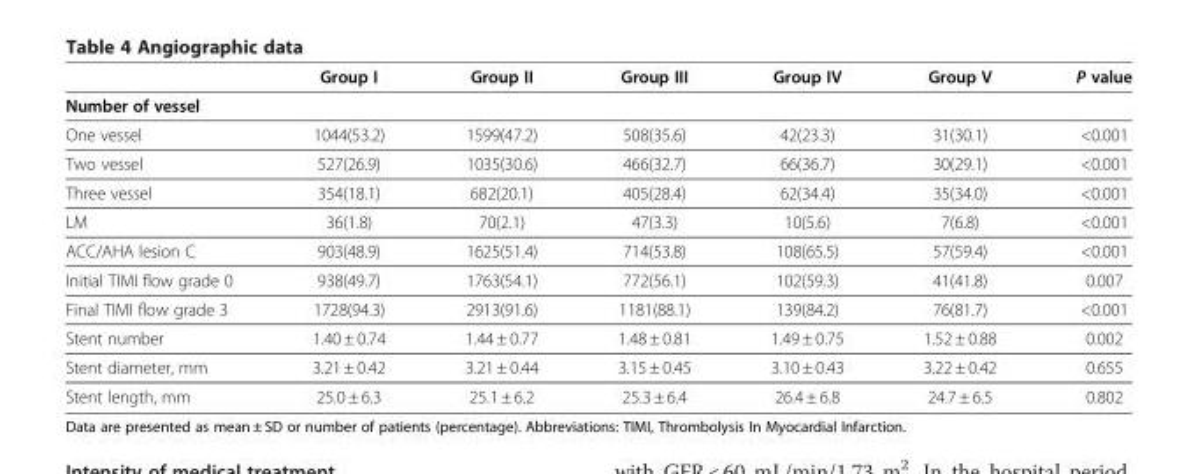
<table><thead><tr><td></td><td>Group I</td><td>Group II</td><td>Group III</td><td>Group IV</td><td>Group V</td><td>P value</td></tr></thead><tbody><tr><td colspan="7">Number of vessel</td></tr><tr><td>One vessel</td><td>1044(53.2)</td><td>1599(47.2)</td><td>508(35.6)</td><td>42(23.3)</td><td>31(30.1)</td><td>&lt;0.001</td></tr><tr><td>Two vessel</td><td>527(26.9)</td><td>1035(30.6)</td><td>466(32.7)</td><td>66(36.7)</td><td>30(29.1)</td><td>&lt;0.001</td></tr><tr><td>Three vessel</td><td>354(18.1)</td><td>682(20.1)</td><td>405(28.4)</td><td>62(34.4)</td><td>35(34.0)</td><td>&lt;0.001</td></tr><tr><td>LM</td><td>36(1.8)</td><td>70(2.1)</td><td>47(3.3)</td><td>10(5.6)</td><td>7(6.8)</td><td>&lt;0.001</td></tr><tr><td>ACC/AHA lesion C</td><td>903(48.9)</td><td>1625(51.4)</td><td>714(53.8)</td><td>108(65.5)</td><td>57(59.4)</td><td>&lt;0.001</td></tr><tr><td>Initial TIMI flow grade 0</td><td>938(49.7)</td><td>1763(54.1)</td><td>772(56.1)</td><td>102(59.3)</td><td>41(41.8)</td><td>0.007</td></tr><tr><td>Final TIMI flow grade 3</td><td>1728(94.3)</td><td>2913(91.6)</td><td>1181(88.1)</td><td>139(84.2)</td><td>76(81.7)</td><td>&lt;0.001</td></tr><tr><td>Stent number</td><td>1.40 ± 0.74</td><td>1.44 ± 0.77</td><td>1.48 ± 0.81</td><td>1.49 ± 0.75</td><td>1.52 ± 0.88</td><td>0.002</td></tr><tr><td>Stent diameter, mm</td><td>3.21 ± 0.42</td><td>3.21 ± 0.44</td><td>3.15 ± 0.45</td><td>3.10 ± 0.43</td><td>3.22 ± 0.42</td><td>0.655</td></tr><tr><td>Stent length, mm</td><td>25.0 ± 6.3</td><td>25.1 ± 6.2</td><td>25.3 ± 6.4</td><td>26.4 ± 6.8</td><td>24.7 ± 6.5</td><td>0.802</td></tr></tbody></table>